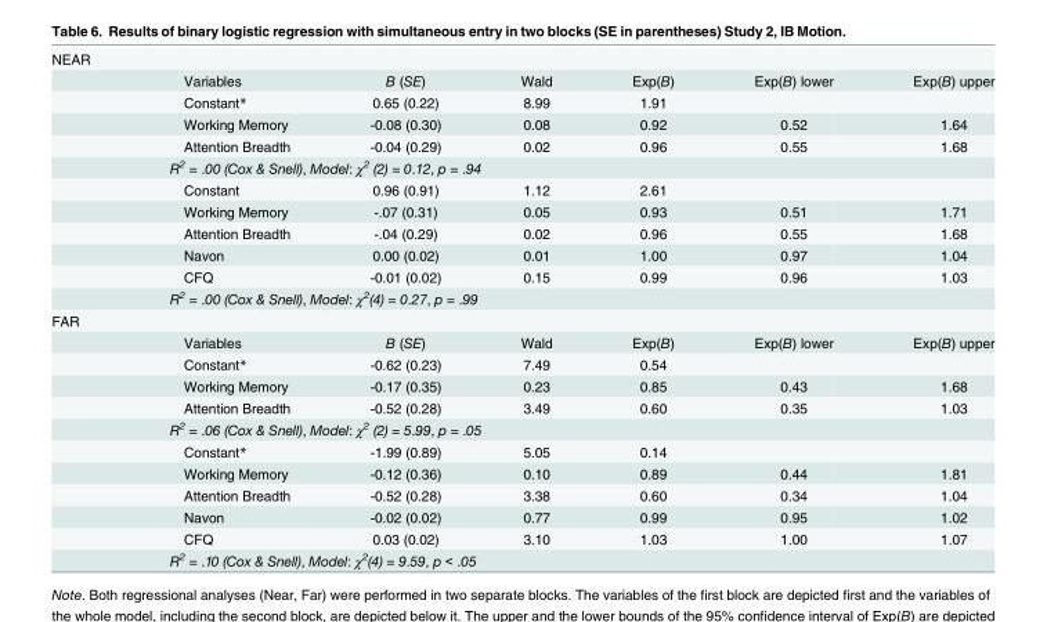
<table><tbody><tr><td colspan="7">NEAR</td></tr><tr><td></td><td>Variables</td><td>B (SE)</td><td>Wald</td><td>Exp(B)</td><td>Exp(B) lower</td><td>Exp(B) upper</td></tr><tr><td></td><td>Constant*</td><td>0.65 (0.22)</td><td>8.99</td><td>1.91</td><td></td><td></td></tr><tr><td></td><td>Working Memory</td><td>-0.08 (0.30)</td><td>0.08</td><td>0.92</td><td>0.52</td><td>1.64</td></tr><tr><td></td><td>Attention Breadth</td><td>-0.04 (0.29)</td><td>0.02</td><td>0.96</td><td>0.55</td><td>1.68</td></tr><tr><td></td><td colspan="6">R<sup>2</sup> = .00 (Cox &amp; Snell), Model: χ<sup>2</sup> (2) = 0.12, p = .94</td></tr><tr><td></td><td>Constant</td><td>0.96 (0.91)</td><td>1.12</td><td>2.61</td><td></td><td></td></tr><tr><td></td><td>Working Memory</td><td>-.07 (0.31)</td><td>0.05</td><td>0.93</td><td>0.51</td><td>1.71</td></tr><tr><td></td><td>Attention Breadth</td><td>-.04 (0.29)</td><td>0.02</td><td>0.96</td><td>0.55</td><td>1.68</td></tr><tr><td></td><td>Navon</td><td>0.00 (0.02)</td><td>0.01</td><td>1.00</td><td>0.97</td><td>1.04</td></tr><tr><td></td><td>CFQ</td><td>-0.01 (0.02)</td><td>0.15</td><td>0.99</td><td>0.96</td><td>1.03</td></tr><tr><td></td><td colspan="6">R<sup>2</sup> = .00 (Cox &amp; Snell), Model: χ<sup>2</sup>(4) = 0.27, p = .99</td></tr><tr><td colspan="7">FAR</td></tr><tr><td></td><td>Variables</td><td>B (SE)</td><td>Wald</td><td>Exp(B)</td><td>Exp(B) lower</td><td>Exp(B) upper</td></tr><tr><td></td><td>Constant*</td><td>-0.62 (0.23)</td><td>7.49</td><td>0.54</td><td></td><td></td></tr><tr><td></td><td>Working Memory</td><td>-0.17 (0.35)</td><td>0.23</td><td>0.85</td><td>0.43</td><td>1.68</td></tr><tr><td></td><td>Attention Breadth</td><td>-0.52 (0.28)</td><td>3.49</td><td>0.60</td><td>0.35</td><td>1.03</td></tr><tr><td></td><td colspan="6">R<sup>2</sup> = .06 (Cox &amp; Snell), Model: χ<sup>2</sup> (2) = 5.99, p = .05</td></tr><tr><td></td><td>Constant*</td><td>-1.99 (0.89)</td><td>5.05</td><td>0.14</td><td></td><td></td></tr><tr><td></td><td>Working Memory</td><td>-0.12 (0.36)</td><td>0.10</td><td>0.89</td><td>0.44</td><td>1.81</td></tr><tr><td></td><td>Attention Breadth</td><td>-0.52 (0.28)</td><td>3.38</td><td>0.60</td><td>0.34</td><td>1.04</td></tr><tr><td></td><td>Navon</td><td>-0.02 (0.02)</td><td>0.77</td><td>0.99</td><td>0.95</td><td>1.02</td></tr><tr><td></td><td>CFQ</td><td>0.03 (0.02)</td><td>3.10</td><td>1.03</td><td>1.00</td><td>1.07</td></tr><tr><td></td><td colspan="6">R<sup>2</sup> = .10 (Cox &amp; Snell), Model: χ<sup>2</sup>(4) = 9.59, p &lt; .05</td></tr></tbody></table>